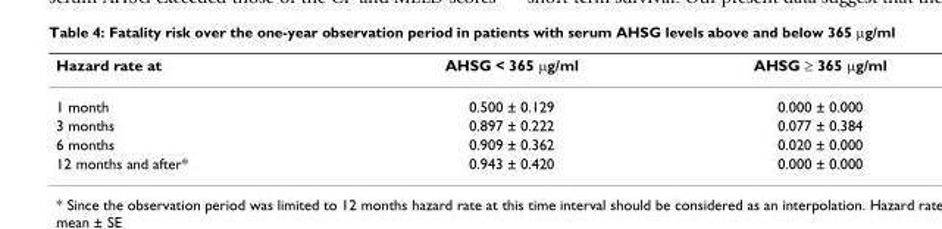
<table><thead><tr><td>Hazard rate at</td><td>AHSG &lt; 365 μg/ml</td><td>AHSG ≥ 365 μg/ml</td></tr></thead><tbody><tr><td>1 month</td><td>0.500 ± 0.129</td><td>0.000 ± 0.000</td></tr><tr><td>3 months</td><td>0.897 ± 0.222</td><td>0.077 ± 0.384</td></tr><tr><td>6 months</td><td>0.909 ± 0.362</td><td>0.020 ± 0.000</td></tr><tr><td>12 months and after*</td><td>0.943 ± 0.420</td><td>0.000 ± 0.000</td></tr></tbody></table>